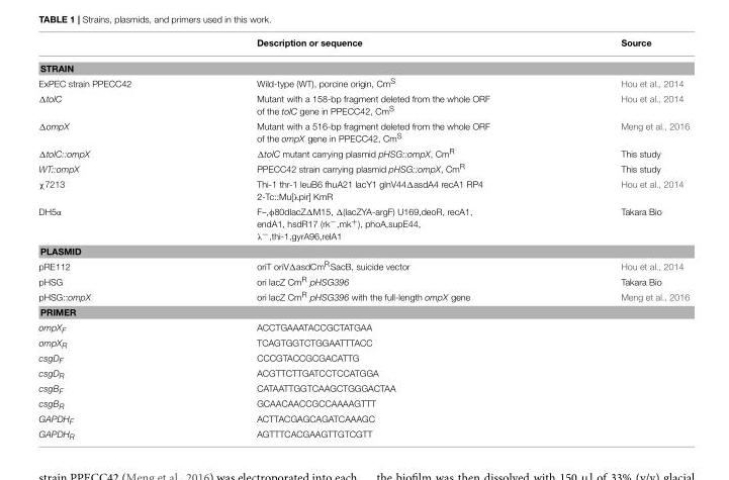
<table><thead><tr><td></td><td>Description or sequence</td><td>Source</td></tr></thead><tbody><tr><td colspan="3">STRAIN</td></tr><tr><td>ExPEC strain PPECC42</td><td>Wild-type (WT), porcine origin, Cm<sup>S</sup></td><td>Hou et al., 2014</td></tr><tr><td>ΔtolC</td><td>Mutant with a 158-bp fragment deleted from the whole ORF of the tolC gene in PPECC42, Cm<sup>S</sup></td><td>Hou et al., 2014</td></tr><tr><td>ΔompX</td><td>Mutant with a 516-bp fragment deleted from the whole ORF of the ompX gene in PPECC42, Cm<sup>S</sup></td><td>Meng et al., 2016</td></tr><tr><td>ΔtolC::ompX</td><td>ΔtolC mutant carrying plasmid pHSG::ompX, Cm<sup>R</sup></td><td>This study</td></tr><tr><td>WT::ompX</td><td>PPECC42 strain carrying plasmid pHSG::ompX, Cm<sup>R</sup></td><td>This study</td></tr><tr><td>χ7213</td><td>Thi-1 thr-1 leuB6 fhuA21 lacY1 glnV44ΔasdA4 recA1 RP4 2-Tc::Mu[λpir] KmR</td><td>Hou et al., 2014</td></tr><tr><td>DH5α</td><td>F–,φ80dlacZΔM15, Δ(lacZYA-argF) U169,deoR, recA1, endA1, hsdR17 (rk<sup>−</sup>,mk<sup>+</sup>), phoA,supE44, λ<sup>−</sup>,thi-1,gyrA96,relA1</td><td>Takara Bio</td></tr><tr><td colspan="3">PLASMID</td></tr><tr><td>pRE112</td><td>oriT oriVΔasdCm<sup>R</sup>SacB, suicide vector</td><td>Hou et al., 2014</td></tr><tr><td>pHSG</td><td>ori lacZ Cm<sup>R</sup> pHSG396</td><td>Takara Bio</td></tr><tr><td>pHSG::ompX</td><td>ori lacZ Cm<sup>R</sup> pHSG396 with the full-length ompX gene</td><td>Meng et al., 2016</td></tr><tr><td colspan="3">PRIMER</td></tr><tr><td>ompXF</td><td>ACCTGAAATACCGCTATGAA</td><td></td></tr><tr><td>ompXR</td><td>TCAGTGGTCTGGAATTTACC</td><td></td></tr><tr><td>csgDF</td><td>CCCGTACCGCGACATTG</td><td></td></tr><tr><td>csgDR</td><td>ACGTTCTTGATCCTCCATGGA</td><td></td></tr><tr><td>csgBF</td><td>CATAATTGGTCAAGCTGGGACTAA</td><td></td></tr><tr><td>csgBR</td><td>GCAACAACCGCCAAAAGTTT</td><td></td></tr><tr><td>GAPDHF</td><td>ACTTACGAGCAGATCAAAGC</td><td></td></tr><tr><td>GAPDHR</td><td>AGTTTCACGAAGTTGTCGTT</td><td></td></tr></tbody></table>